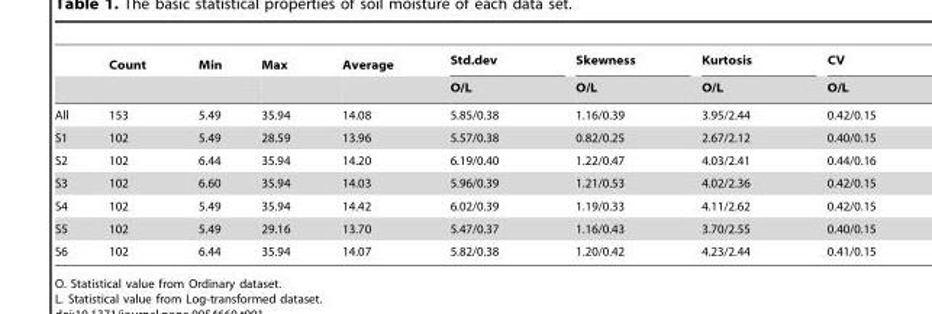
<table><thead><tr><td rowspan="2"></td><td rowspan="2">Count</td><td rowspan="2">Min</td><td rowspan="2">Max</td><td rowspan="2">Average</td><td rowspan="2">Std.dev O/L</td><td rowspan="2">Skewness O/L</td><td rowspan="2">Kurtosis O/L</td><td rowspan="2">CV O/L</td></tr><tr></tr></thead><tbody><tr><td>All</td><td>153</td><td>5.49</td><td>35.94</td><td>14.08</td><td>5.85/0.38</td><td>1.16/0.39</td><td>3.95/2.44</td><td>0.42/0.15</td></tr><tr><td>S1</td><td>102</td><td>5.49</td><td>28.59</td><td>13.96</td><td>5.57/0.38</td><td>0.82/0.25</td><td>2.67/2.12</td><td>0.40/0.15</td></tr><tr><td>S2</td><td>102</td><td>6.44</td><td>35.94</td><td>14.20</td><td>6.19/0.40</td><td>1.22/0.47</td><td>4.03/2.41</td><td>0.44/0.16</td></tr><tr><td>S3</td><td>102</td><td>6.60</td><td>35.94</td><td>14.03</td><td>5.96/0.39</td><td>1.21/0.53</td><td>4.02/2.36</td><td>0.42/0.15</td></tr><tr><td>S4</td><td>102</td><td>5.49</td><td>35.94</td><td>14.42</td><td>6.02/0.39</td><td>1.19/0.33</td><td>4.11/2.62</td><td>0.42/0.15</td></tr><tr><td>S5</td><td>102</td><td>5.49</td><td>29.16</td><td>13.70</td><td>5.47/0.37</td><td>1.16/0.43</td><td>3.70/2.55</td><td>0.40/0.15</td></tr><tr><td>S6</td><td>102</td><td>6.44</td><td>35.94</td><td>14.07</td><td>5.82/0.38</td><td>1.20/0.42</td><td>4.23/2.44</td><td>0.41/0.15</td></tr></tbody></table>